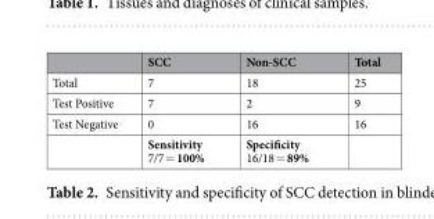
<table><thead><tr><td></td><td>SCC</td><td>Non-SCC</td><td>Total</td></tr></thead><tbody><tr><td>Total</td><td>7</td><td>18</td><td>25</td></tr><tr><td>Test Positive</td><td>7</td><td>2</td><td>9</td></tr><tr><td rowspan="2">Test Negative</td><td>0</td><td>16</td><td>16</td></tr><tr><td>Sensitivity 7/7 = 100%</td><td>Specificity 16/18 = 89%</td><td></td></tr></tbody></table>